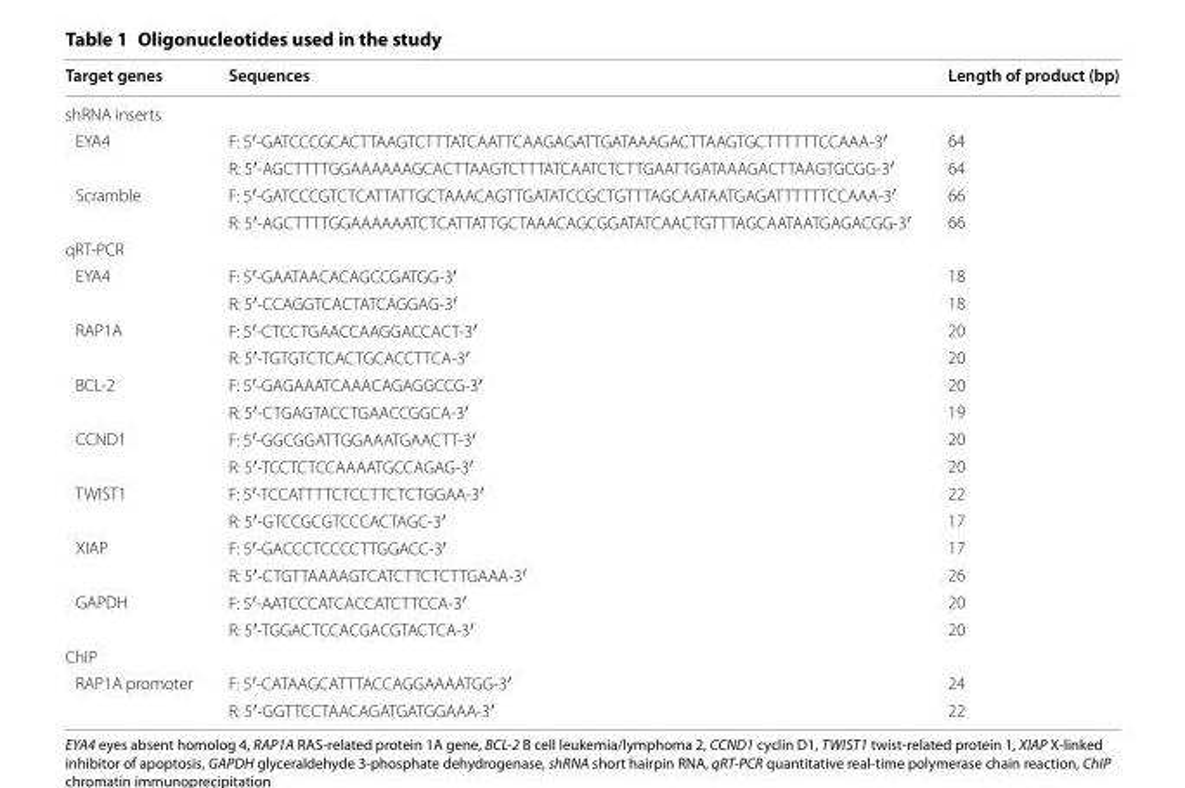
<table><thead><tr><td>Target genes</td><td>Sequences</td><td>Length of product (bp)</td></tr></thead><tbody><tr><td colspan="3">shRNA inserts</td></tr><tr><td rowspan="2">EYA4</td><td>F: 5′‑GATCCCGCACTTAAGTCTTTATCAATTCAAGAGATTGATAAAGACTTAAGTGCTTTTTTCCAAA‑3′</td><td>64</td></tr><tr><td>R: 5′‑AGCTTTTGGAAAAAAGCACTTAAGTCTTTATCAATCTCTTGAATTGATAAAGACTTAAGTGCGG‑3′</td><td>64</td></tr><tr><td rowspan="2">Scramble</td><td>F: 5′‑GATCCCGTCTCATTATTGCTAAACAGTTGATATCCGCTGTTTAGCAATAATGAGATTTTTTCCAAA‑3′</td><td>66</td></tr><tr><td>R: 5′‑AGCTTTTGGAAAAAATCTCATTATTGCTAAACAGCGGATATCAACTGTTTAGCAATAATGAGACGG‑3′</td><td>66</td></tr><tr><td colspan="3">qRT‑PCR</td></tr><tr><td rowspan="2">EYA4</td><td>F: 5′‑GAATAACACAGCCGATGG‑3′</td><td>18</td></tr><tr><td>R: 5′‑CCAGGTCACTATCAGGAG‑3′</td><td>18</td></tr><tr><td rowspan="2">RAP1A</td><td>F: 5′‑CTCCTGAACCAAGGACCACT‑3′</td><td>20</td></tr><tr><td>R: 5′‑TGTGTCTCACTGCACCTTCA‑3′</td><td>20</td></tr><tr><td rowspan="2">BCL‑2</td><td>F: 5′‑GAGAAATCAAACAGAGGCCG‑3′</td><td>20</td></tr><tr><td>R: 5′‑CTGAGTACCTGAACCGGCA‑3′</td><td>19</td></tr><tr><td rowspan="2">CCND1</td><td>F: 5′‑GGCGGATTGGAAATGAACTT‑3′</td><td>20</td></tr><tr><td>R: 5′‑TCCTCTCCAAAATGCCAGAG‑3′</td><td>20</td></tr><tr><td rowspan="2">TWIST1</td><td>F: 5′‑TCCATTTTCTCCTTCTCTGGAA‑3′</td><td>22</td></tr><tr><td>R: 5′‑GTCCGCGTCCCACTAGC‑3′</td><td>17</td></tr><tr><td rowspan="2">XIAP</td><td>F: 5′‑GACCCTCCCCTTGGACC‑3′</td><td>17</td></tr><tr><td>R: 5′‑CTGTTAAAAGTCATCTTCTCTTGAAA‑3′</td><td>26</td></tr><tr><td rowspan="2">GAPDH</td><td>F: 5′‑AATCCCATCACCATCTTCCA‑3′</td><td>20</td></tr><tr><td>R: 5′‑TGGACTCCACGACGTACTCA‑3′</td><td>20</td></tr><tr><td colspan="3">ChIP</td></tr><tr><td rowspan="2">RAP1A promoter</td><td>F: 5′‑CATAAGCATTTACCAGGAAAATGG‑3′</td><td>24</td></tr><tr><td>R: 5′‑GGTTCCTAACAGATGATGGAAA‑3′</td><td>22</td></tr></tbody></table>